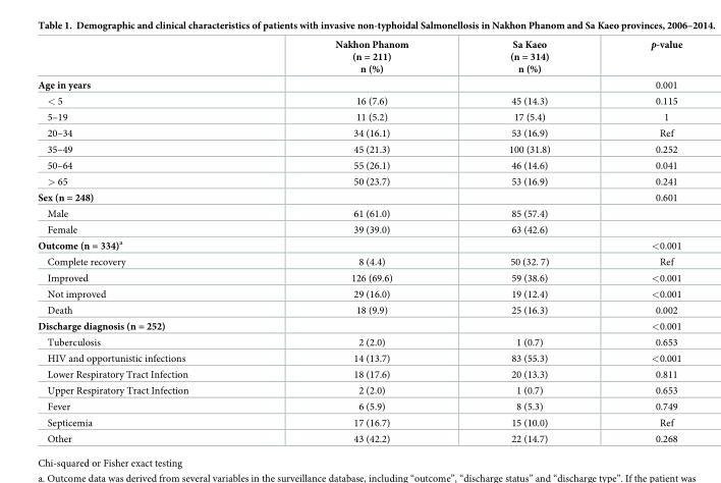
<table><thead><tr><td></td><td>Nakhon Phanom (n = 211) n (%)</td><td>Sa Kaeo (n = 314) n (%)</td><td>p-value</td></tr></thead><tbody><tr><td>Age in years</td><td></td><td></td><td>0.001</td></tr><tr><td>&lt; 5</td><td>16 (7.6)</td><td>45 (14.3)</td><td>0.115</td></tr><tr><td>5–19</td><td>11 (5.2)</td><td>17 (5.4)</td><td>1</td></tr><tr><td>20–34</td><td>34 (16.1)</td><td>53 (16.9)</td><td>Ref</td></tr><tr><td>35–49</td><td>45 (21.3)</td><td>100 (31.8)</td><td>0.252</td></tr><tr><td>50–64</td><td>55 (26.1)</td><td>46 (14.6)</td><td>0.041</td></tr><tr><td>&gt; 65</td><td>50 (23.7)</td><td>53 (16.9)</td><td>0.241</td></tr><tr><td>Sex (n = 248)</td><td></td><td></td><td>0.601</td></tr><tr><td>Male</td><td>61 (61.0)</td><td>85 (57.4)</td><td></td></tr><tr><td>Female</td><td>39 (39.0)</td><td>63 (42.6)</td><td></td></tr><tr><td>Outcome (n = 334)<sup>a</sup></td><td></td><td></td><td>&lt;0.001</td></tr><tr><td>Complete recovery</td><td>8 (4.4)</td><td>50 (32. 7)</td><td>Ref</td></tr><tr><td>Improved</td><td>126 (69.6)</td><td>59 (38.6)</td><td>&lt;0.001</td></tr><tr><td>Not improved</td><td>29 (16.0)</td><td>19 (12.4)</td><td>&lt;0.001</td></tr><tr><td>Death</td><td>18 (9.9)</td><td>25 (16.3)</td><td>0.002</td></tr><tr><td>Discharge diagnosis (n = 252)</td><td></td><td></td><td>&lt;0.001</td></tr><tr><td>Tuberculosis</td><td>2 (2.0)</td><td>1 (0.7)</td><td>0.653</td></tr><tr><td>HIV and opportunistic infections</td><td>14 (13.7)</td><td>83 (55.3)</td><td>&lt;0.001</td></tr><tr><td>Lower Respiratory Tract Infection</td><td>18 (17.6)</td><td>20 (13.3)</td><td>0.811</td></tr><tr><td>Upper Respiratory Tract Infection</td><td>2 (2.0)</td><td>1 (0.7)</td><td>0.653</td></tr><tr><td>Fever</td><td>6 (5.9)</td><td>8 (5.3)</td><td>0.749</td></tr><tr><td>Septicemia</td><td>17 (16.7)</td><td>15 (10.0)</td><td>Ref</td></tr><tr><td>Other</td><td>43 (42.2)</td><td>22 (14.7)</td><td>0.268</td></tr></tbody></table>